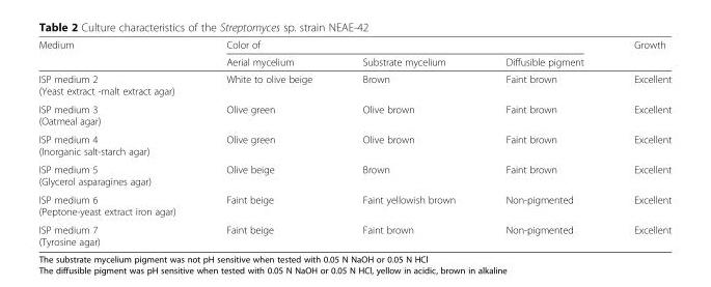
<table><thead><tr><td rowspan="2">Medium</td><td colspan="3">Color of</td><td rowspan="2">Growth</td></tr><tr><td>Aerial mycelium</td><td>Substrate mycelium</td><td>Diffusible pigment</td></tr></thead><tbody><tr><td>ISP medium 2 (Yeast extract -malt extract agar)</td><td>White to olive beige</td><td>Brown</td><td>Faint brown</td><td>Excellent</td></tr><tr><td>ISP medium 3 (Oatmeal agar)</td><td>Olive green</td><td>Olive brown</td><td>Faint brown</td><td>Excellent</td></tr><tr><td>ISP medium 4 (Inorganic salt-starch agar)</td><td>Olive green</td><td>Olive brown</td><td>Faint brown</td><td>Excellent</td></tr><tr><td>ISP medium 5 (Glycerol asparagines agar)</td><td>Olive beige</td><td>Brown</td><td>Faint brown</td><td>Excellent</td></tr><tr><td>ISP medium 6 (Peptone-yeast extract iron agar)</td><td>Faint beige</td><td>Faint yellowish brown</td><td>Non-pigmented</td><td>Excellent</td></tr><tr><td>ISP medium 7 (Tyrosine agar)</td><td>Faint beige</td><td>Faint brown</td><td>Non-pigmented</td><td>Excellent</td></tr></tbody></table>